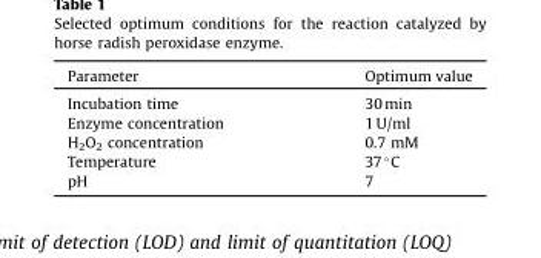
<table><thead><tr><td>Parameter</td><td>Optimum value</td></tr></thead><tbody><tr><td>Incubation time</td><td>30 min</td></tr><tr><td>Enzyme concentration</td><td>1 U/ml</td></tr><tr><td>H<sub>2</sub>O<sub>2</sub> concentration</td><td>0.7 mM</td></tr><tr><td>Temperature</td><td>37 °C</td></tr><tr><td>pH</td><td>7</td></tr></tbody></table>